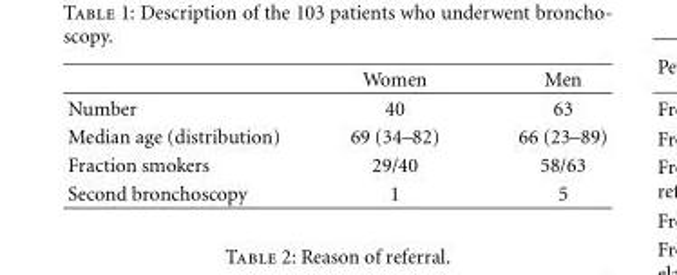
<table><thead><tr><td></td><td>Women</td><td>Men</td></tr></thead><tbody><tr><td>Number</td><td>40</td><td>63</td></tr><tr><td>Median age (distribution)</td><td>69 (34–82)</td><td>66 (23–89)</td></tr><tr><td>Fraction smokers</td><td>29/40</td><td>58/63</td></tr><tr><td>Second bronchoscopy</td><td>1</td><td>5</td></tr></tbody></table>